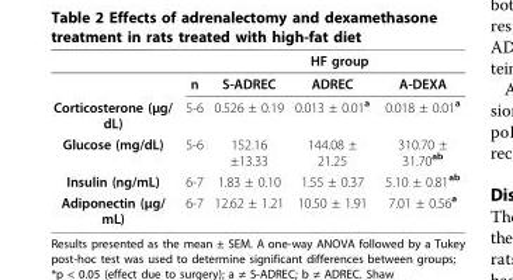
<table><thead><tr><td rowspan="2"></td><td rowspan="2">n</td><td colspan="3">HF group</td></tr><tr><td>S-ADREC</td><td>ADREC</td><td>A-DEXA</td></tr></thead><tbody><tr><td>Corticosterone (μg/ dL)</td><td>5-6</td><td>0.526 ± 0.19</td><td>0.013 ± 0.01<sup>a</sup></td><td>0.018 ± 0.01<sup>a</sup></td></tr><tr><td>Glucose (mg/dL)</td><td>5-6</td><td>152.16 ±13.33</td><td>144.08 ± 21.25</td><td>310.70 ± 31.70<sup>ab</sup></td></tr><tr><td>Insulin (ng/mL)</td><td>6-7</td><td>1.83 ± 0.10</td><td>1.55 ± 0.37</td><td>5.10 ± 0.81<sup>ab</sup></td></tr><tr><td>Adiponectin (μg/ mL)</td><td>6-7</td><td>12.62 ± 1.21</td><td>10.50 ± 1.91</td><td>7.01 ± 0.56<sup>a</sup></td></tr></tbody></table>